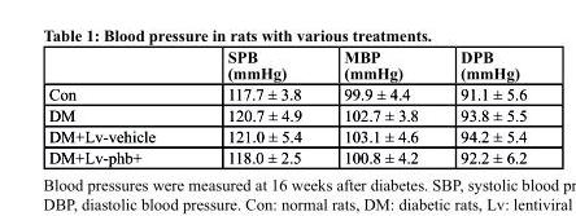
<table><thead><tr><td></td><td>sPb (mmHg)</td><td>MbP (mmHg)</td><td>DPb (mmHg)</td></tr></thead><tbody><tr><td>Con</td><td>117.7 ± 3.8</td><td>99.9 ± 4.4</td><td>91.1 ± 5.6</td></tr><tr><td>DM</td><td>120.7 ± 4.9</td><td>102.7 ± 3.8</td><td>93.8 ± 5.5</td></tr><tr><td>DM+Lv-vehicle</td><td>121.0 ± 5.4</td><td>103.1 ± 4.6</td><td>94.2 ± 5.4</td></tr><tr><td>DM+Lv-phb+</td><td>118.0 ± 2.5</td><td>100.8 ± 4.2</td><td>92.2 ± 6.2</td></tr></tbody></table>